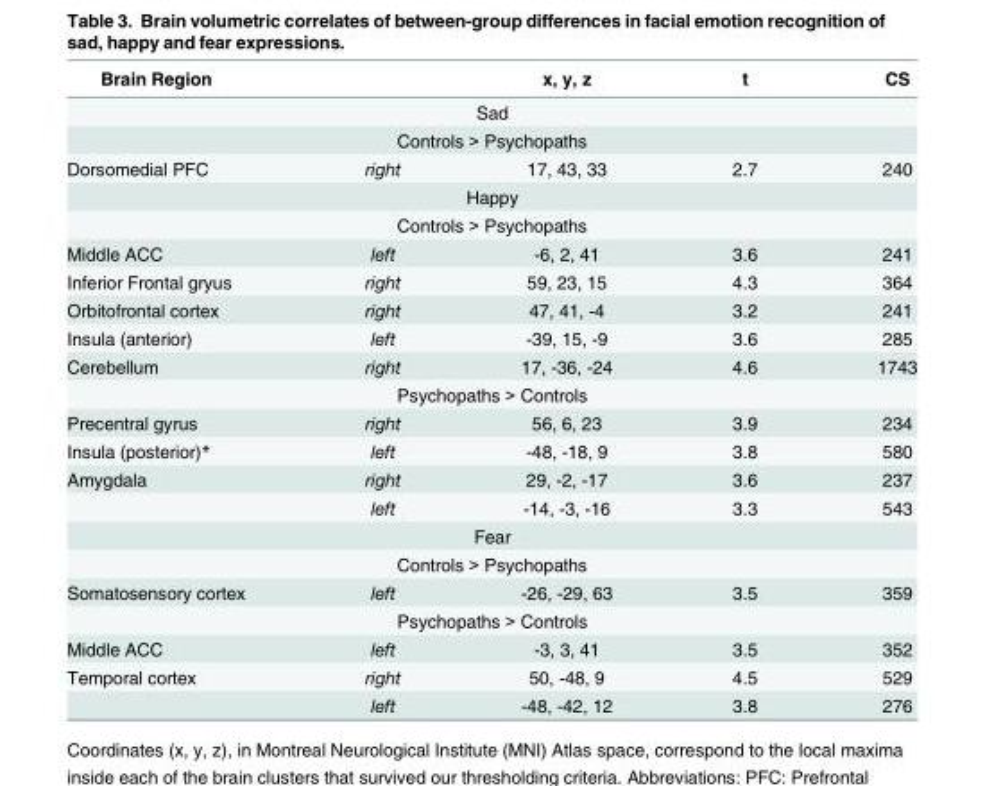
<table><thead><tr><td>Brain Region</td><td></td><td>x, y, z</td><td>t</td><td>CS</td></tr></thead><tbody><tr><td colspan="5">Sad</td></tr><tr><td colspan="5">Controls &gt; Psychopaths</td></tr><tr><td>Dorsomedial PFC</td><td>right</td><td>17, 43, 33</td><td>2.7</td><td>240</td></tr><tr><td colspan="5">Happy</td></tr><tr><td colspan="5">Controls &gt; Psychopaths</td></tr><tr><td>Middle ACC</td><td>left</td><td>-6, 2, 41</td><td>3.6</td><td>241</td></tr><tr><td>Inferior Frontal gryus</td><td>right</td><td>59, 23, 15</td><td>4.3</td><td>364</td></tr><tr><td>Orbitofrontal cortex</td><td>right</td><td>47, 41, -4</td><td>3.2</td><td>241</td></tr><tr><td>Insula (anterior)</td><td>left</td><td>-39, 15, -9</td><td>3.6</td><td>285</td></tr><tr><td>Cerebellum</td><td>right</td><td>17, -36, -24</td><td>4.6</td><td>1743</td></tr><tr><td colspan="5">Psychopaths &gt; Controls</td></tr><tr><td>Precentral gyrus</td><td>right</td><td>56, 6, 23</td><td>3.9</td><td>234</td></tr><tr><td>Insula (posterior)*</td><td>left</td><td>-48, -18, 9</td><td>3.8</td><td>580</td></tr><tr><td rowspan="2">Amygdala</td><td>right</td><td>29, -2, -17</td><td>3.6</td><td>237</td></tr><tr><td>left</td><td>-14, -3, -16</td><td>3.3</td><td>543</td></tr><tr><td colspan="5">Fear</td></tr><tr><td colspan="5">Controls &gt; Psychopaths</td></tr><tr><td>Somatosensory cortex</td><td>left</td><td>-26, -29, 63</td><td>3.5</td><td>359</td></tr><tr><td colspan="5">Psychopaths &gt; Controls</td></tr><tr><td>Middle ACC</td><td>left</td><td>-3, 3, 41</td><td>3.5</td><td>352</td></tr><tr><td rowspan="2">Temporal cortex</td><td>right</td><td>50, -48, 9</td><td>4.5</td><td>529</td></tr><tr><td>left</td><td>-48, -42, 12</td><td>3.8</td><td>276</td></tr></tbody></table>